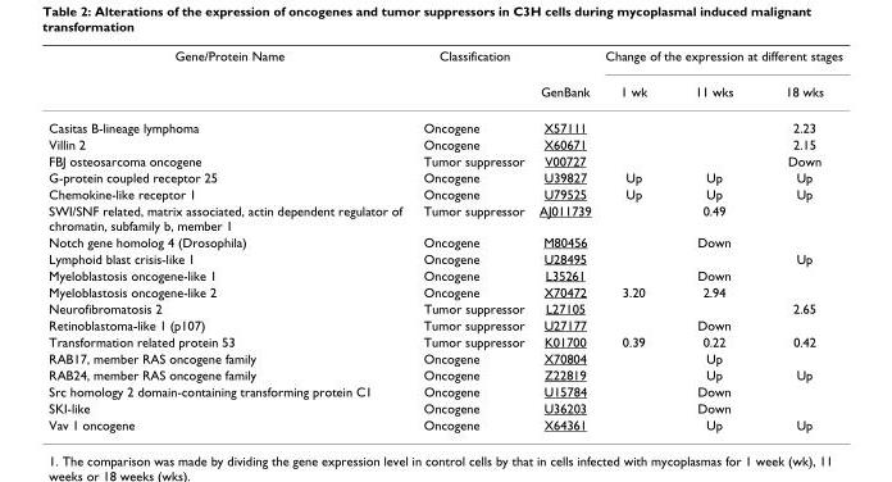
<table><thead><tr><td rowspan="2">Gene/Protein Name</td><td rowspan="2">Classification</td><td rowspan="2">GenBank</td><td colspan="3">Change of the expression at different stages</td></tr><tr><td>1 wk</td><td>11 wks</td><td>18 wks</td></tr></thead><tbody><tr><td>Casitas B-lineage lymphoma</td><td>Oncogene</td><td>X57111</td><td></td><td></td><td>2.23</td></tr><tr><td>Villin 2</td><td>Oncogene</td><td>X60671</td><td></td><td></td><td>2.15</td></tr><tr><td>FBJ osteosarcoma oncogene</td><td>Tumor suppressor</td><td>V00727</td><td></td><td></td><td>Down</td></tr><tr><td>G-protein coupled receptor 25</td><td>Oncogene</td><td>U39827</td><td>Up</td><td>Up</td><td>Up</td></tr><tr><td>Chemokine-like receptor 1</td><td>Oncogene</td><td>U79525</td><td>Up</td><td>Up</td><td>Up</td></tr><tr><td>SWI/SNF related, matrix associated, actin dependent regulator of chromatin, subfamily b, member 1</td><td>Tumor suppressor</td><td>AJ011739</td><td></td><td>0.49</td><td></td></tr><tr><td>Notch gene homolog 4 (Drosophila)</td><td>Oncogene</td><td>M80456</td><td></td><td>Down</td><td></td></tr><tr><td>Lymphoid blast crisis-like 1</td><td>Oncogene</td><td>U28495</td><td></td><td></td><td>Up</td></tr><tr><td>Myeloblastosis oncogene-like 1</td><td>Oncogene</td><td>L35261</td><td></td><td>Down</td><td></td></tr><tr><td>Myeloblastosis oncogene-like 2</td><td>Oncogene</td><td>X70472</td><td>3.20</td><td>2.94</td><td></td></tr><tr><td>Neurofibromatosis 2</td><td>Tumor suppressor</td><td>L27105</td><td></td><td></td><td>2.65</td></tr><tr><td>Retinoblastoma-like 1 (p107)</td><td>Tumor suppressor</td><td>U27177</td><td></td><td>Down</td><td></td></tr><tr><td>Transformation related protein 53</td><td>Tumor suppressor</td><td>K01700</td><td>0.39</td><td>0.22</td><td>0.42</td></tr><tr><td>RAB17, member RAS oncogene family</td><td>Oncogene</td><td>X70804</td><td></td><td>Up</td><td></td></tr><tr><td>RAB24, member RAS oncogene family</td><td>Oncogene</td><td>Z22819</td><td></td><td>Up</td><td>Up</td></tr><tr><td>Src homology 2 domain-containing transforming protein C1</td><td>Oncogene</td><td>U15784</td><td></td><td>Down</td><td></td></tr><tr><td>SKI-like</td><td>Oncogene</td><td>U36203</td><td></td><td>Down</td><td></td></tr><tr><td>Vav 1 oncogene</td><td>Oncogene</td><td>X64361</td><td></td><td>Up</td><td>Up</td></tr></tbody></table>